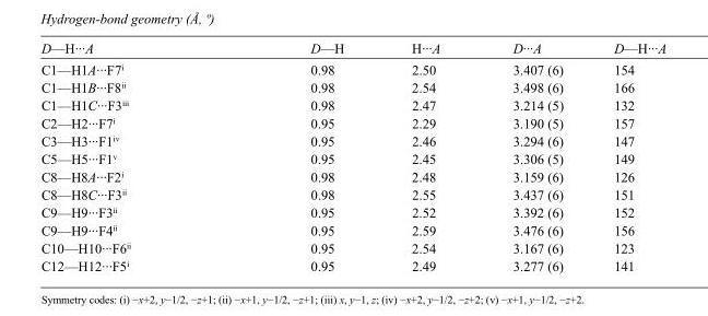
<table><tbody><tr><td>D—H···A</td><td>D—H</td><td>H···A</td><td>D···A</td><td>D—H···A</td></tr><tr><td>C1—H1A···F7<sup>i</sup></td><td>0.98</td><td>2.50</td><td>3.407 (6)</td><td>154</td></tr><tr><td>C1—H1B···F8<sup>ii</sup></td><td>0.98</td><td>2.54</td><td>3.498 (6)</td><td>166</td></tr><tr><td>C1—H1C···F3<sup>iii</sup></td><td>0.98</td><td>2.47</td><td>3.214 (5)</td><td>132</td></tr><tr><td>C2—H2···F7<sup>i</sup></td><td>0.95</td><td>2.29</td><td>3.190 (5)</td><td>157</td></tr><tr><td>C3—H3···F1<sup>iv</sup></td><td>0.95</td><td>2.46</td><td>3.294 (6)</td><td>147</td></tr><tr><td>C5—H5···F1<sup>v</sup></td><td>0.95</td><td>2.45</td><td>3.306 (5)</td><td>149</td></tr><tr><td>C8—H8A···F2<sup>i</sup></td><td>0.98</td><td>2.48</td><td>3.159 (6)</td><td>126</td></tr><tr><td>C8—H8C···F3<sup>ii</sup></td><td>0.98</td><td>2.55</td><td>3.437 (6)</td><td>151</td></tr><tr><td>C9—H9···F3<sup>ii</sup></td><td>0.95</td><td>2.52</td><td>3.392 (6)</td><td>152</td></tr><tr><td>C9—H9···F4<sup>ii</sup></td><td>0.95</td><td>2.59</td><td>3.476 (6)</td><td>156</td></tr><tr><td>C10—H10···F6<sup>ii</sup></td><td>0.95</td><td>2.54</td><td>3.167 (6)</td><td>123</td></tr><tr><td>C12—H12···F5<sup>i</sup></td><td>0.95</td><td>2.49</td><td>3.277 (6)</td><td>141</td></tr></tbody></table>